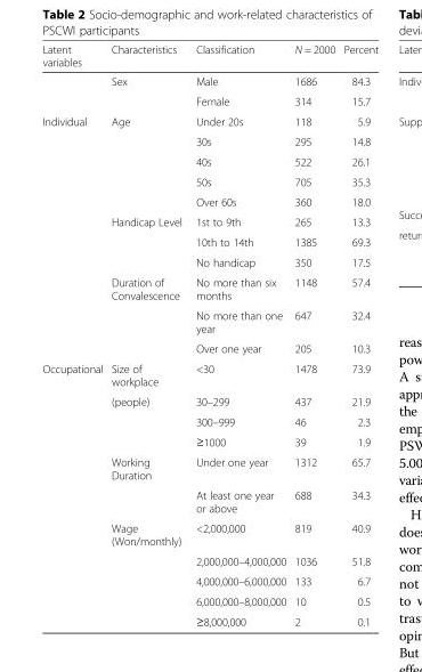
<table><thead><tr><td>Latent variables</td><td>Characteristics</td><td>Classification</td><td>N = 2000</td><td>Percent</td></tr></thead><tbody><tr><td></td><td>Sex</td><td>Male</td><td>1686</td><td>84.3</td></tr><tr><td></td><td></td><td>Female</td><td>314</td><td>15.7</td></tr><tr><td rowspan="11">Individual</td><td>Age</td><td>Under 20s</td><td>118</td><td>5.9</td></tr><tr><td></td><td>30s</td><td>295</td><td>14.8</td></tr><tr><td></td><td>40s</td><td>522</td><td>26.1</td></tr><tr><td></td><td>50s</td><td>705</td><td>35.3</td></tr><tr><td></td><td>Over 60s</td><td>360</td><td>18.0</td></tr><tr><td>Handicap Level</td><td>1st to 9th</td><td>265</td><td>13.3</td></tr><tr><td></td><td>10th to 14th</td><td>1385</td><td>69.3</td></tr><tr><td></td><td>No handicap</td><td>350</td><td>17.5</td></tr><tr><td rowspan="2">Duration of Convalescence</td><td>No more than six months</td><td>1148</td><td>57.4</td></tr><tr><td>No more than one year</td><td>647</td><td>32.4</td></tr><tr><td></td><td>Over one year</td><td>205</td><td>10.3</td></tr><tr><td rowspan="11">Occupational</td><td>Size of workplace</td><td>&lt;30</td><td>1478</td><td>73.9</td></tr><tr><td>(people)</td><td>30–299</td><td>437</td><td>21.9</td></tr><tr><td></td><td>300–999</td><td>46</td><td>2.3</td></tr><tr><td></td><td>≥1000</td><td>39</td><td>1.9</td></tr><tr><td>Working Duration</td><td>Under one year</td><td>1312</td><td>65.7</td></tr><tr><td></td><td>At least one year or above</td><td>688</td><td>34.3</td></tr><tr><td>Wage (Won/monthly)</td><td>&lt;2,000,000</td><td>819</td><td>40.9</td></tr><tr><td></td><td>2,000,000–4,000,000</td><td>1036</td><td>51.8</td></tr><tr><td></td><td>4,000,000–6,000,000</td><td>133</td><td>6.7</td></tr><tr><td></td><td>6,000,000–8,000,000</td><td>10</td><td>0.5</td></tr><tr><td></td><td>≥8,000,000</td><td>2</td><td>0.1</td></tr></tbody></table>